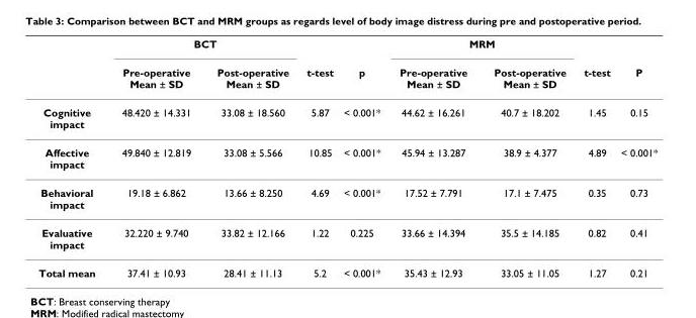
<table><thead><tr><td rowspan="2"></td><td colspan="2">BCT</td><td rowspan="2">t-test</td><td rowspan="2">p</td><td colspan="2">MRM</td><td rowspan="2">t-test</td><td rowspan="2">P</td></tr><tr><td>Pre-operative Mean ± SD</td><td>Post-operative Mean ± SD</td><td>Pre-operative Mean ± SD</td><td>Post-operative Mean ± SD</td></tr></thead><tbody><tr><td>Cognitive impact</td><td>48.420 ± 14.331</td><td>33.08 ± 18.560</td><td>5.87</td><td>&lt; 0.001*</td><td>44.62 ± 16.261</td><td>40.7 ± 18.202</td><td>1.45</td><td>0.15</td></tr><tr><td>Affective impact</td><td>49.840 ± 12.819</td><td>33.08 ± 5.566</td><td>10.85</td><td>&lt; 0.001*</td><td>45.94 ± 13.287</td><td>38.9 ± 4.377</td><td>4.89</td><td>&lt; 0.001*</td></tr><tr><td>Behavioral impact</td><td>19.18 ± 6.862</td><td>13.66 ± 8.250</td><td>4.69</td><td>&lt; 0.001*</td><td>17.52 ± 7.791</td><td>17.1 ± 7.475</td><td>0.35</td><td>0.73</td></tr><tr><td>Evaluative impact</td><td>32.220 ± 9.740</td><td>33.82 ± 12.166</td><td>1.22</td><td>0.225</td><td>33.66 ± 14.394</td><td>35.5 ± 14.185</td><td>0.82</td><td>0.41</td></tr><tr><td>Total mean</td><td>37.41 ± 10.93</td><td>28.41 ± 11.13</td><td>5.2</td><td>&lt; 0.001*</td><td>35.43 ± 12.93</td><td>33.05 ± 11.05</td><td>1.27</td><td>0.21</td></tr></tbody></table>